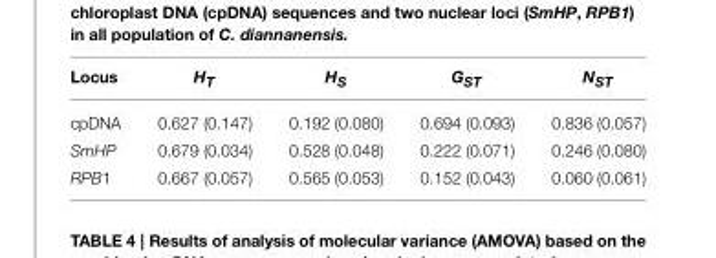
<table><thead><tr><td>Locus</td><td>HT</td><td>HS</td><td>GST</td><td>NST</td></tr></thead><tbody><tr><td>cpDNA</td><td>0.627 (0.147)</td><td>0.192 (0.080)</td><td>0.694 (0.093)</td><td>0.836 (0.057)</td></tr><tr><td>SmHP</td><td>0.679 (0.034)</td><td>0.528 (0.048)</td><td>0.222 (0.071)</td><td>0.246 (0.080)</td></tr><tr><td>RPB1</td><td>0.667 (0.057)</td><td>0.565 (0.053)</td><td>0.152 (0.043)</td><td>0.060 (0.061)</td></tr></tbody></table>